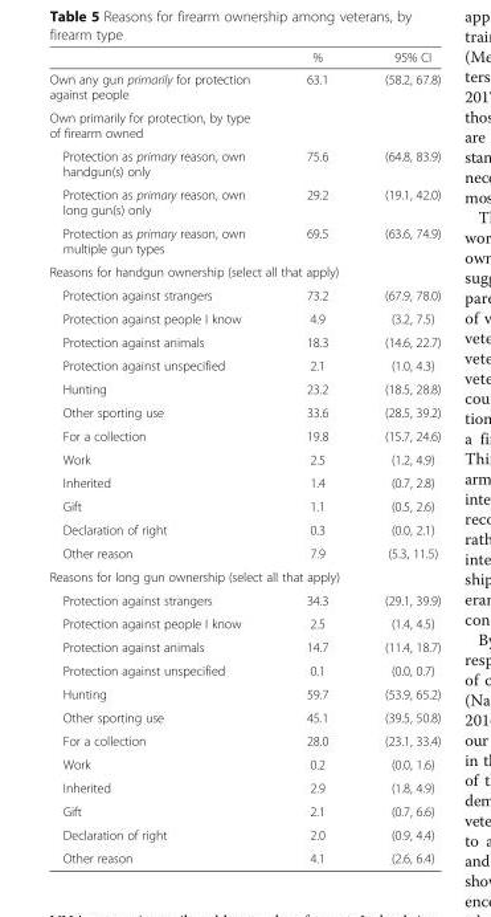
<table><thead><tr><td></td><td>%</td><td>95% CI</td></tr></thead><tbody><tr><td>Own any gun primarily for protection against people</td><td>63.1</td><td>(58.2, 67.8)</td></tr><tr><td colspan="3">Own primarily for protection, by type of firearm owned</td></tr><tr><td>Protection as primary reason, own handgun(s) only</td><td>75.6</td><td>(64.8, 83.9)</td></tr><tr><td>Protection as primary reason, own long gun(s) only</td><td>29.2</td><td>(19.1, 42.0)</td></tr><tr><td>Protection as primary reason, own multiple gun types</td><td>69.5</td><td>(63.6, 74.9)</td></tr><tr><td colspan="3">Reasons for handgun ownership (select all that apply)</td></tr><tr><td>Protection against strangers</td><td>73.2</td><td>(67.9, 78.0)</td></tr><tr><td>Protection against people I know</td><td>4.9</td><td>(3.2, 7.5)</td></tr><tr><td>Protection against animals</td><td>18.3</td><td>(14.6, 22.7)</td></tr><tr><td>Protection against unspecified</td><td>2.1</td><td>(1.0, 4.3)</td></tr><tr><td>Hunting</td><td>23.2</td><td>(18.5, 28.8)</td></tr><tr><td>Other sporting use</td><td>33.6</td><td>(28.5, 39.2)</td></tr><tr><td>For a collection</td><td>19.8</td><td>(15.7, 24.6)</td></tr><tr><td>Work</td><td>2.5</td><td>(1.2, 4.9)</td></tr><tr><td>Inherited</td><td>1.4</td><td>(0.7, 2.8)</td></tr><tr><td>Gift</td><td>1.1</td><td>(0.5, 2.6)</td></tr><tr><td>Declaration of right</td><td>0.3</td><td>(0.0, 2.1)</td></tr><tr><td>Other reason</td><td>7.9</td><td>(5.3, 11.5)</td></tr><tr><td colspan="3">Reasons for long gun ownership (select all that apply)</td></tr><tr><td>Protection against strangers</td><td>34.3</td><td>(29.1, 39.9)</td></tr><tr><td>Protection against people I know</td><td>2.5</td><td>(1.4, 4.5)</td></tr><tr><td>Protection against animals</td><td>14.7</td><td>(11.4, 18.7)</td></tr><tr><td>Protection against unspecified</td><td>0.1</td><td>(0.0, 0.7)</td></tr><tr><td>Hunting</td><td>59.7</td><td>(53.9, 65.2)</td></tr><tr><td>Other sporting use</td><td>45.1</td><td>(39.5, 50.8)</td></tr><tr><td>For a collection</td><td>28.0</td><td>(23.1, 33.4)</td></tr><tr><td>Work</td><td>0.2</td><td>(0.0, 1.6)</td></tr><tr><td>Inherited</td><td>2.9</td><td>(1.8, 4.9)</td></tr><tr><td>Gift</td><td>2.1</td><td>(0.7, 6.6)</td></tr><tr><td>Declaration of right</td><td>2.0</td><td>(0.9, 4.4)</td></tr><tr><td>Other reason</td><td>4.1</td><td>(2.6, 6.4)</td></tr></tbody></table>